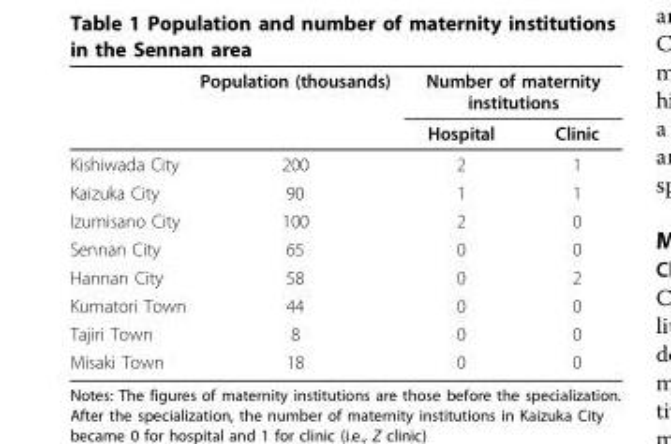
<table><thead><tr><td rowspan="2"></td><td rowspan="2">Population (thousands)</td><td colspan="2">Number of maternity institutions</td></tr><tr><td>Hospital</td><td>Clinic</td></tr></thead><tbody><tr><td>Kishiwada City</td><td>200</td><td>2</td><td>1</td></tr><tr><td>Kaizuka City</td><td>90</td><td>1</td><td>1</td></tr><tr><td>Izumisano City</td><td>100</td><td>2</td><td>0</td></tr><tr><td>Sennan City</td><td>65</td><td>0</td><td>0</td></tr><tr><td>Hannan City</td><td>58</td><td>0</td><td>2</td></tr><tr><td>Kumatori Town</td><td>44</td><td>0</td><td>0</td></tr><tr><td>Tajiri Town</td><td>8</td><td>0</td><td>0</td></tr><tr><td>Misaki Town</td><td>18</td><td>0</td><td>0</td></tr></tbody></table>